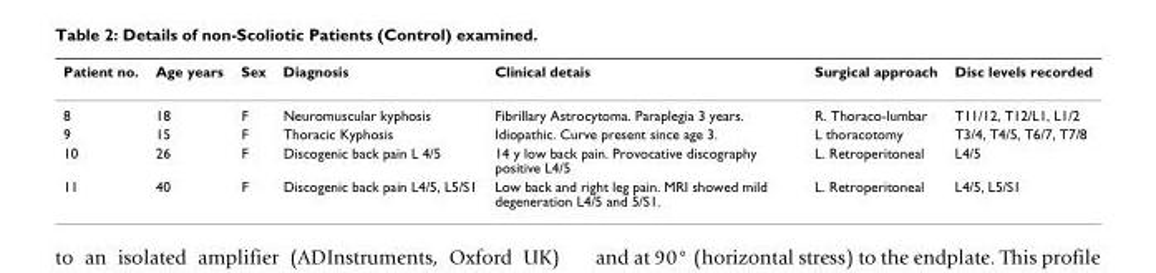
<table><thead><tr><td>Patient no.</td><td>Age years</td><td>Sex</td><td>Diagnosis</td><td>Clinical detais</td><td>Surgical approach</td><td>Disc levels recorded</td></tr></thead><tbody><tr><td>8</td><td>18</td><td>F</td><td>Neuromuscular kyphosis</td><td>Fibrillary Astrocytoma. Paraplegia 3 years.</td><td>R. Thoraco-lumbar</td><td>T11/12, T12/L1, L1/2</td></tr><tr><td>9</td><td>15</td><td>F</td><td>Thoracic Kyphosis</td><td>Idiopathic. Curve present since age 3.</td><td>L thoracotomy</td><td>T3/4, T4/5, T6/7, T7/8</td></tr><tr><td>10</td><td>26</td><td>F</td><td>Discogenic back pain L 4/5</td><td>14 y low back pain. Provocative discography positive L4/5</td><td>L. Retroperitoneal</td><td>L4/5</td></tr><tr><td>11</td><td>40</td><td>F</td><td>Discogenic back pain L4/5, L5/S1</td><td>Low back and right leg pain. MRI showed mild degeneration L4/5 and 5/S1.</td><td>L. Retroperitoneal</td><td>L4/5, L5/S1</td></tr></tbody></table>